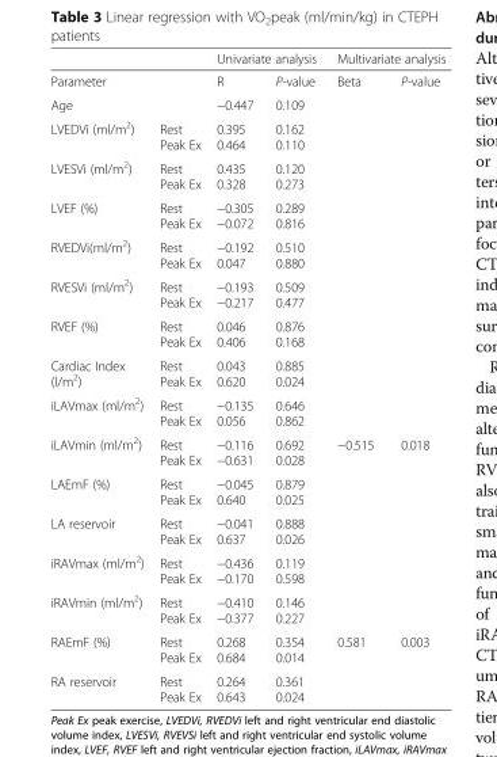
<table><thead><tr><td></td><td></td><td colspan="2">Univariate analysis</td><td colspan="2">Multivariate analysis</td></tr><tr><td colspan="2">Parameter</td><td>R</td><td>P-value</td><td>Beta</td><td>P-value</td></tr></thead><tbody><tr><td colspan="2">Age</td><td>−0.447</td><td>0.109</td><td></td><td></td></tr><tr><td>LVEDVi (ml/m<sup>2</sup>)</td><td>Rest Peak Ex</td><td>0.395 0.464</td><td>0.162 0.110</td><td></td><td></td></tr><tr><td>LVESVi (ml/m<sup>2</sup>)</td><td>Rest Peak Ex</td><td>0.435 0.328</td><td>0.120 0.273</td><td></td><td></td></tr><tr><td>LVEF (%)</td><td>Rest Peak Ex</td><td>−0.305 −0.072</td><td>0.289 0.816</td><td></td><td></td></tr><tr><td>RVEDVi(ml/m<sup>2</sup>)</td><td>Rest Peak Ex</td><td>−0.192 0.047</td><td>0.510 0.880</td><td></td><td></td></tr><tr><td>RVESVi (ml/m<sup>2</sup>)</td><td>Rest Peak Ex</td><td>−0.193 −0.217</td><td>0.509 0.477</td><td></td><td></td></tr><tr><td>RVEF (%)</td><td>Rest Peak Ex</td><td>0.046 0.406</td><td>0.876 0.168</td><td></td><td></td></tr><tr><td>Cardiac Index (l/m<sup>2</sup>)</td><td>Rest Peak Ex</td><td>0.043 0.620</td><td>0.885 0.024</td><td></td><td></td></tr><tr><td>iLAVmax (ml/m<sup>2</sup>)</td><td>Rest Peak Ex</td><td>−0.135 0.056</td><td>0.646 0.862</td><td></td><td></td></tr><tr><td>iLAVmin (ml/m<sup>2</sup>)</td><td>Rest Peak Ex</td><td>−0.116 −0.631</td><td>0.692 0.028</td><td>−0.515</td><td>0.018</td></tr><tr><td>LAEmF (%)</td><td>Rest Peak Ex</td><td>−0.045 0.640</td><td>0.879 0.025</td><td></td><td></td></tr><tr><td>LA reservoir</td><td>Rest Peak Ex</td><td>−0.041 0.637</td><td>0.888 0.026</td><td></td><td></td></tr><tr><td>iRAVmax (ml/m<sup>2</sup>)</td><td>Rest Peak Ex</td><td>−0.436 −0.170</td><td>0.119 0.598</td><td></td><td></td></tr><tr><td>iRAVmin (ml/m<sup>2</sup>)</td><td>Rest Peak Ex</td><td>−0.410 −0.377</td><td>0.146 0.227</td><td></td><td></td></tr><tr><td>RAEmF (%)</td><td>Rest Peak Ex</td><td>0.268 0.684</td><td>0.354 0.014</td><td>0.581</td><td>0.003</td></tr><tr><td>RA reservoir</td><td>Rest Peak Ex</td><td>0.264 0.643</td><td>0.361 0.024</td><td></td><td></td></tr></tbody></table>